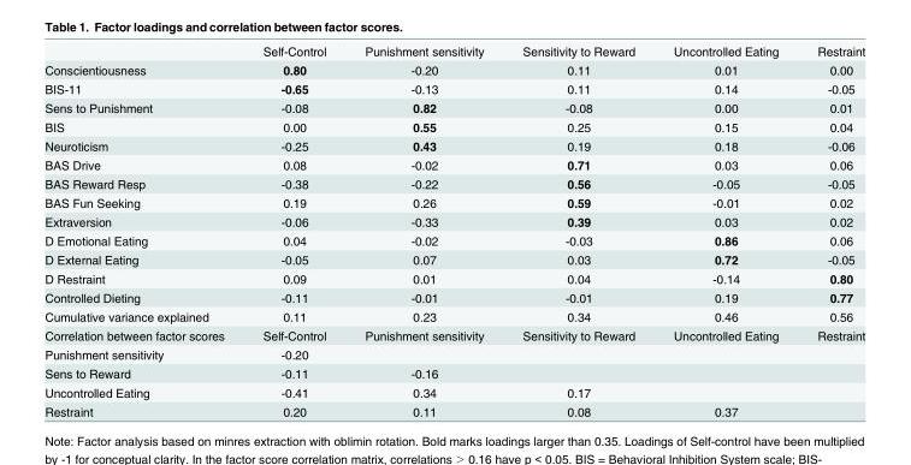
<table><thead><tr><td></td><td>Self-Control</td><td>Punishment sensitivity</td><td>Sensitivity to Reward</td><td>Uncontrolled Eating</td><td>Restraint</td></tr></thead><tbody><tr><td>Conscientiousness</td><td>0.80</td><td>-0.20</td><td>0.11</td><td>0.01</td><td>0.00</td></tr><tr><td>BIS-11</td><td>-0.65</td><td>-0.13</td><td>0.11</td><td>0.14</td><td>-0.05</td></tr><tr><td>Sens to Punishment</td><td>-0.08</td><td>0.82</td><td>-0.08</td><td>0.00</td><td>0.01</td></tr><tr><td>BIS</td><td>0.00</td><td>0.55</td><td>0.25</td><td>0.15</td><td>0.04</td></tr><tr><td>Neuroticism</td><td>-0.25</td><td>0.43</td><td>0.19</td><td>0.18</td><td>-0.06</td></tr><tr><td>BAS Drive</td><td>0.08</td><td>-0.02</td><td>0.71</td><td>0.03</td><td>0.06</td></tr><tr><td>BAS Reward Resp</td><td>-0.38</td><td>-0.22</td><td>0.56</td><td>-0.05</td><td>-0.05</td></tr><tr><td>BAS Fun Seeking</td><td>0.19</td><td>0.26</td><td>0.59</td><td>-0.01</td><td>0.02</td></tr><tr><td>Extraversion</td><td>-0.06</td><td>-0.33</td><td>0.39</td><td>0.03</td><td>0.02</td></tr><tr><td>D Emotional Eating</td><td>0.04</td><td>-0.02</td><td>-0.03</td><td>0.86</td><td>0.06</td></tr><tr><td>D External Eating</td><td>-0.05</td><td>0.07</td><td>0.03</td><td>0.72</td><td>-0.05</td></tr><tr><td>D Restraint</td><td>0.09</td><td>0.01</td><td>0.04</td><td>-0.14</td><td>0.80</td></tr><tr><td>Controlled Dieting</td><td>-0.11</td><td>-0.01</td><td>-0.01</td><td>0.19</td><td>0.77</td></tr><tr><td>Cumulative variance explained</td><td>0.11</td><td>0.23</td><td>0.34</td><td>0.46</td><td>0.56</td></tr><tr><td>Correlation between factor scores</td><td>Self-Control</td><td>Punishment sensitivity</td><td>Sensitivity to Reward</td><td>Uncontrolled Eating</td><td>Restraint</td></tr><tr><td>Punishment sensitivity</td><td>-0.20</td><td></td><td></td><td></td><td></td></tr><tr><td>Sens to Reward</td><td>-0.11</td><td>-0.16</td><td></td><td></td><td></td></tr><tr><td>Uncontrolled Eating</td><td>-0.41</td><td>0.34</td><td>0.17</td><td></td><td></td></tr><tr><td>Restraint</td><td>0.20</td><td>0.11</td><td>0.08</td><td>0.37</td><td></td></tr></tbody></table>